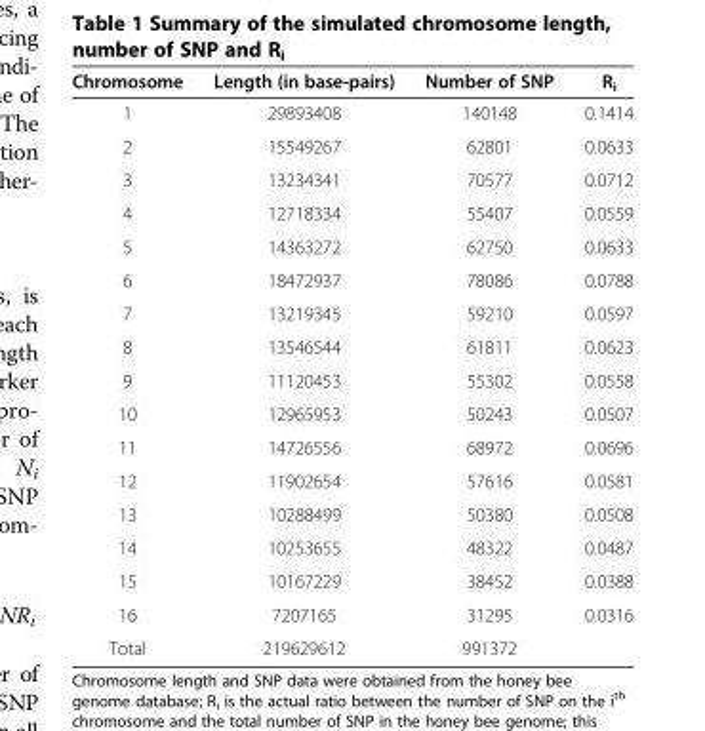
<table><thead><tr><td>Chromosome</td><td>Length (in base-pairs)</td><td>Number of SNP</td><td>R<sub>i</sub></td></tr></thead><tbody><tr><td>1</td><td>29893408</td><td>140148</td><td>0.1414</td></tr><tr><td>2</td><td>15549267</td><td>62801</td><td>0.0633</td></tr><tr><td>3</td><td>13234341</td><td>70577</td><td>0.0712</td></tr><tr><td>4</td><td>12718334</td><td>55407</td><td>0.0559</td></tr><tr><td>5</td><td>14363272</td><td>62750</td><td>0.0633</td></tr><tr><td>6</td><td>18472937</td><td>78086</td><td>0.0788</td></tr><tr><td>7</td><td>13219345</td><td>59210</td><td>0.0597</td></tr><tr><td>8</td><td>13546544</td><td>61811</td><td>0.0623</td></tr><tr><td>9</td><td>11120453</td><td>55302</td><td>0.0558</td></tr><tr><td>10</td><td>12965953</td><td>50243</td><td>0.0507</td></tr><tr><td>11</td><td>14726556</td><td>68972</td><td>0.0696</td></tr><tr><td>12</td><td>11902654</td><td>57616</td><td>0.0581</td></tr><tr><td>13</td><td>10288499</td><td>50380</td><td>0.0508</td></tr><tr><td>14</td><td>10253655</td><td>48322</td><td>0.0487</td></tr><tr><td>15</td><td>10167229</td><td>38452</td><td>0.0388</td></tr><tr><td>16</td><td>7207165</td><td>31295</td><td>0.0316</td></tr><tr><td>Total</td><td>219629612</td><td>991372</td><td></td></tr></tbody></table>